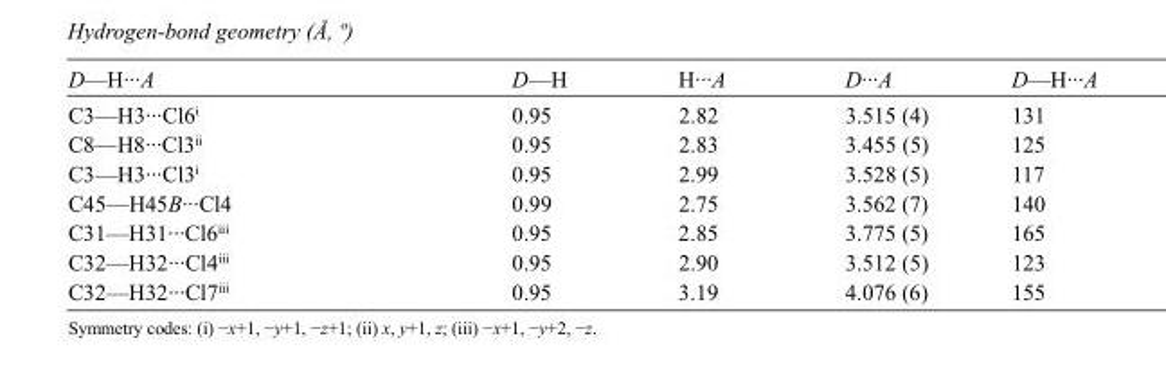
<table><tbody><tr><td>D—H···A</td><td>D—H</td><td>H···A</td><td>D···A</td><td>D—H···A</td></tr><tr><td>C3—H3···Cl6<sup>i</sup></td><td>0.95</td><td>2.82</td><td>3.515 (4)</td><td>131</td></tr><tr><td>C8—H8···Cl3<sup>ii</sup></td><td>0.95</td><td>2.83</td><td>3.455 (5)</td><td>125</td></tr><tr><td>C3—H3···Cl3<sup>i</sup></td><td>0.95</td><td>2.99</td><td>3.528 (5)</td><td>117</td></tr><tr><td>C45—H45B···Cl4</td><td>0.99</td><td>2.75</td><td>3.562 (7)</td><td>140</td></tr><tr><td>C31—H31···Cl6<sup>iii</sup></td><td>0.95</td><td>2.85</td><td>3.775 (5)</td><td>165</td></tr><tr><td>C32—H32···Cl4<sup>iii</sup></td><td>0.95</td><td>2.90</td><td>3.512 (5)</td><td>123</td></tr><tr><td>C32—H32···Cl7<sup>iii</sup></td><td>0.95</td><td>3.19</td><td>4.076 (6)</td><td>155</td></tr></tbody></table>